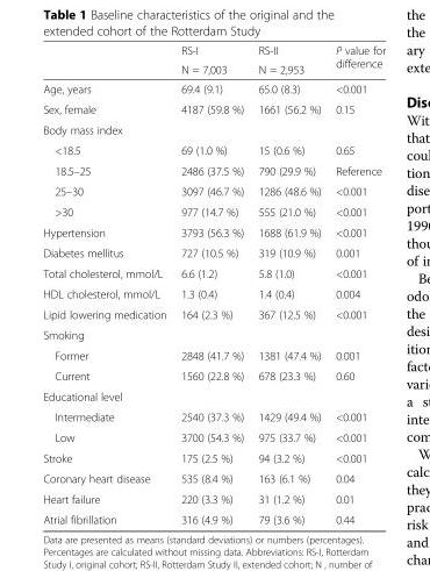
<table><thead><tr><td rowspan="2"></td><td rowspan="2">RS-I N = 7,003</td><td rowspan="2">RS-II N = 2,953</td><td rowspan="2">P value for difference</td></tr><tr></tr></thead><tbody><tr><td>Age, years</td><td>69.4 (9.1)</td><td>65.0 (8.3)</td><td>&lt;0.001</td></tr><tr><td>Sex, female</td><td>4187 (59.8 %)</td><td>1661 (56.2 %)</td><td>0.15</td></tr><tr><td colspan="4">Body mass index</td></tr><tr><td>&lt;18.5</td><td>69 (1.0 %)</td><td>15 (0.6 %)</td><td>0.65</td></tr><tr><td>18.5–25</td><td>2486 (37.5 %)</td><td>790 (29.9 %)</td><td>Reference</td></tr><tr><td>25–30</td><td>3097 (46.7 %)</td><td>1286 (48.6 %)</td><td>&lt;0.001</td></tr><tr><td>&gt;30</td><td>977 (14.7 %)</td><td>555 (21.0 %)</td><td>&lt;0.001</td></tr><tr><td>Hypertension</td><td>3793 (56.3 %)</td><td>1688 (61.9 %)</td><td>&lt;0.001</td></tr><tr><td>Diabetes mellitus</td><td>727 (10.5 %)</td><td>319 (10.9 %)</td><td>0.001</td></tr><tr><td>Total cholesterol, mmol/L</td><td>6.6 (1.2)</td><td>5.8 (1.0)</td><td>&lt;0.001</td></tr><tr><td>HDL cholesterol, mmol/L</td><td>1.3 (0.4)</td><td>1.4 (0.4)</td><td>0.004</td></tr><tr><td>Lipid lowering medication</td><td>164 (2.3 %)</td><td>367 (12.5 %)</td><td>&lt;0.001</td></tr><tr><td colspan="4">Smoking</td></tr><tr><td>Former</td><td>2848 (41.7 %)</td><td>1381 (47.4 %)</td><td>0.001</td></tr><tr><td>Current</td><td>1560 (22.8 %)</td><td>678 (23.3 %)</td><td>0.60</td></tr><tr><td colspan="4">Educational level</td></tr><tr><td>Intermediate</td><td>2540 (37.3 %)</td><td>1429 (49.4 %)</td><td>&lt;0.001</td></tr><tr><td>Low</td><td>3700 (54.3 %)</td><td>975 (33.7 %)</td><td>&lt;0.001</td></tr><tr><td>Stroke</td><td>175 (2.5 %)</td><td>94 (3.2 %)</td><td>&lt;0.001</td></tr><tr><td>Coronary heart disease</td><td>535 (8.4 %)</td><td>163 (6.1 %)</td><td>0.04</td></tr><tr><td>Heart failure</td><td>220 (3.3 %)</td><td>31 (1.2 %)</td><td>0.01</td></tr><tr><td>Atrial fibrillation</td><td>316 (4.9 %)</td><td>79 (3.6 %)</td><td>0.44</td></tr></tbody></table>